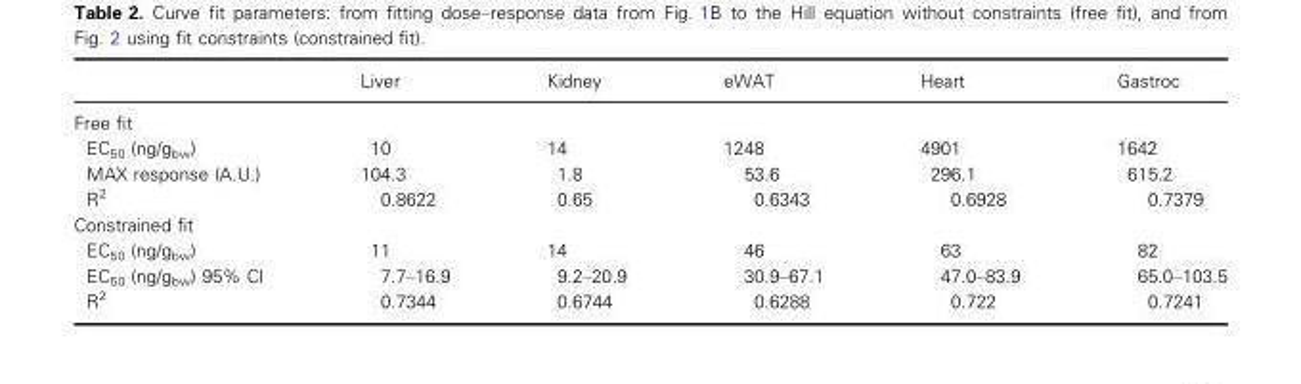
<table><thead><tr><td></td><td>Liver</td><td>Kidney</td><td>eWAT</td><td>Heart</td><td>Gastroc</td></tr></thead><tbody><tr><td colspan="6">Free fit</td></tr><tr><td>EC<sub>50</sub> (ng/g<sub>bw</sub>)</td><td>10</td><td>14</td><td>1248</td><td>4901</td><td>1642</td></tr><tr><td>MAX response (A.U.)</td><td>104.3</td><td>1.8</td><td>53.6</td><td>296.1</td><td>615.2</td></tr><tr><td>R<sup>2</sup></td><td>0.8622</td><td>0.65</td><td>0.6343</td><td>0.6928</td><td>0.7379</td></tr><tr><td colspan="6">Constrained fit</td></tr><tr><td>EC<sub>50</sub> (ng/g<sub>bw</sub>)</td><td>11</td><td>14</td><td>46</td><td>63</td><td>82</td></tr><tr><td>EC<sub>50</sub> (ng/g<sub>bw</sub>) 95% CI</td><td>7.7–16.9</td><td>9.2–20.9</td><td>30.9–67.1</td><td>47.0–83.9</td><td>65.0–103.5</td></tr><tr><td>R<sup>2</sup></td><td>0.7344</td><td>0.6744</td><td>0.6288</td><td>0.722</td><td>0.7241</td></tr></tbody></table>